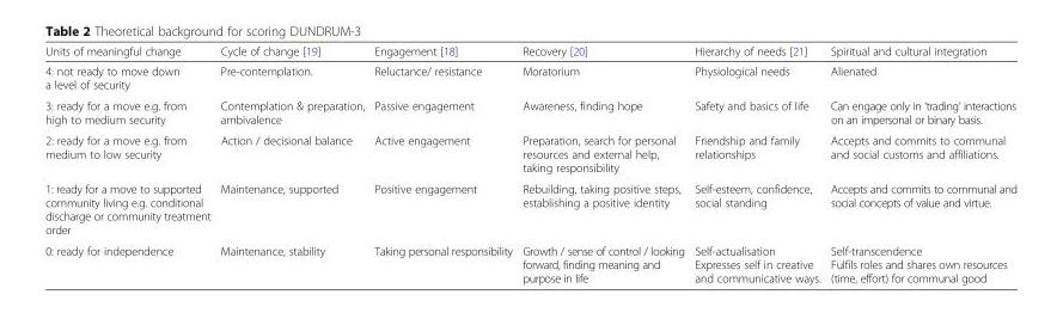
<table><thead><tr><td>Units of meaningful change</td><td>Cycle of change [19]</td><td>Engagement [18]</td><td>Recovery [20]</td><td>Hierarchy of needs [21]</td><td>Spiritual and cultural integration</td></tr></thead><tbody><tr><td>4: not ready to move down a level of security</td><td>Pre-contemplation.</td><td>Reluctance/ resistance</td><td>Moratorium</td><td>Physiological needs</td><td>Alienated</td></tr><tr><td>3: ready for a move e.g. from high to medium security</td><td>Contemplation &amp; preparation, ambivalence</td><td>Passive engagement</td><td>Awareness, finding hope</td><td>Safety and basics of life</td><td>Can engage only in ‘trading’ interactions on an impersonal or binary basis.</td></tr><tr><td>2: ready for a move e.g. from medium to low security</td><td>Action / decisional balance</td><td>Active engagement</td><td>Preparation, search for personal resources and external help, taking responsibility</td><td>Friendship and family relationships</td><td>Accepts and commits to communal and social customs and affiliations.</td></tr><tr><td>1: ready for a move to supported community living e.g. conditional discharge or community treatment order</td><td>Maintenance, supported</td><td>Positive engagement</td><td>Rebuilding, taking positive steps, establishing a positive identity</td><td>Self-esteem, confidence, social standing</td><td>Accepts and commits to communal and social concepts of value and virtue.</td></tr><tr><td>0: ready for independence</td><td>Maintenance, stability</td><td>Taking personal responsibility</td><td>Growth / sense of control / looking forward, finding meaning and purpose in life</td><td>Self-actualisation Expresses self in creative and communicative ways.</td><td>Self-transcendence Fulfils roles and shares own resources (time, effort) for communal good</td></tr></tbody></table>